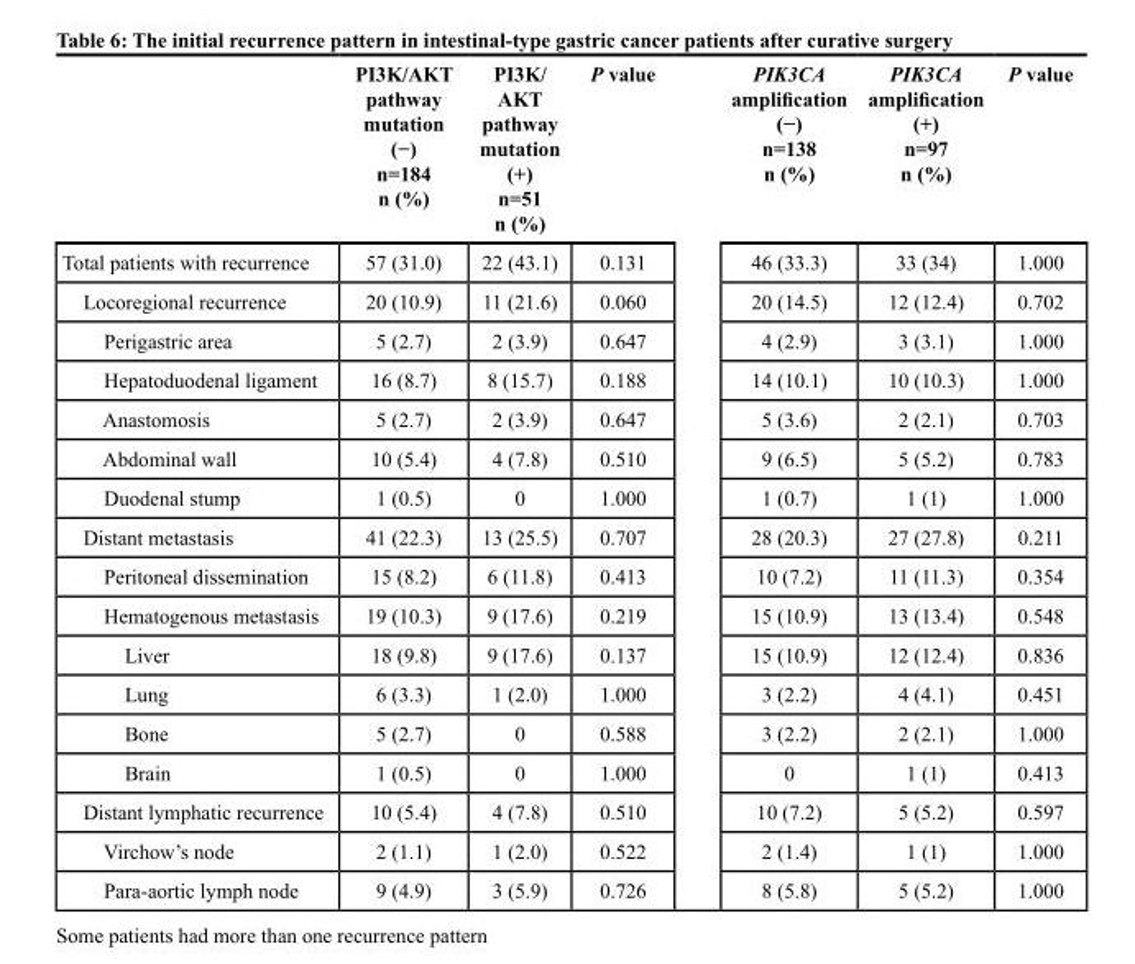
<table><thead><tr><td></td><td>PI3K/AKT pathway mutation (−) n=184 n (%)</td><td>PI3K/ AKT pathway mutation (+) n=51 n (%)</td><td>P value</td><td>PIK3CA amplification (−) n=138 n (%)</td><td>PIK3CA amplification (+) n=97 n (%)</td><td>P value</td></tr></thead><tbody><tr><td>Total patients with recurrence</td><td>57 (31.0)</td><td>22 (43.1)</td><td>0.131</td><td>46 (33.3)</td><td>33 (34)</td><td>1.000</td></tr><tr><td>Locoregional recurrence</td><td>20 (10.9)</td><td>11 (21.6)</td><td>0.060</td><td>20 (14.5)</td><td>12 (12.4)</td><td>0.702</td></tr><tr><td>Perigastric area</td><td>5 (2.7)</td><td>2 (3.9)</td><td>0.647</td><td>4 (2.9)</td><td>3 (3.1)</td><td>1.000</td></tr><tr><td>Hepatoduodenal ligament</td><td>16 (8.7)</td><td>8 (15.7)</td><td>0.188</td><td>14 (10.1)</td><td>10 (10.3)</td><td>1.000</td></tr><tr><td>Anastomosis</td><td>5 (2.7)</td><td>2 (3.9)</td><td>0.647</td><td>5 (3.6)</td><td>2 (2.1)</td><td>0.703</td></tr><tr><td>Abdominal wall</td><td>10 (5.4)</td><td>4 (7.8)</td><td>0.510</td><td>9 (6.5)</td><td>5 (5.2)</td><td>0.783</td></tr><tr><td>Duodenal stump</td><td>1 (0.5)</td><td>0</td><td>1.000</td><td>1 (0.7)</td><td>1 (1)</td><td>1.000</td></tr><tr><td>Distant metastasis</td><td>41 (22.3)</td><td>13 (25.5)</td><td>0.707</td><td>28 (20.3)</td><td>27 (27.8)</td><td>0.211</td></tr><tr><td>Peritoneal dissemination</td><td>15 (8.2)</td><td>6 (11.8)</td><td>0.413</td><td>10 (7.2)</td><td>11 (11.3)</td><td>0.354</td></tr><tr><td>Hematogenous metastasis</td><td>19 (10.3)</td><td>9 (17.6)</td><td>0.219</td><td>15 (10.9)</td><td>13 (13.4)</td><td>0.548</td></tr><tr><td>Liver</td><td>18 (9.8)</td><td>9 (17.6)</td><td>0.137</td><td>15 (10.9)</td><td>12 (12.4)</td><td>0.836</td></tr><tr><td>Lung</td><td>6 (3.3)</td><td>1 (2.0)</td><td>1.000</td><td>3 (2.2)</td><td>4 (4.1)</td><td>0.451</td></tr><tr><td>Bone</td><td>5 (2.7)</td><td>0</td><td>0.588</td><td>3 (2.2)</td><td>2 (2.1)</td><td>1.000</td></tr><tr><td>Brain</td><td>1 (0.5)</td><td>0</td><td>1.000</td><td>0</td><td>1 (1)</td><td>0.413</td></tr><tr><td>Distant lymphatic recurrence</td><td>10 (5.4)</td><td>4 (7.8)</td><td>0.510</td><td>10 (7.2)</td><td>5 (5.2)</td><td>0.597</td></tr><tr><td>Virchow’s node</td><td>2 (1.1)</td><td>1 (2.0)</td><td>0.522</td><td>2 (1.4)</td><td>1 (1)</td><td>1.000</td></tr><tr><td>Para-aortic lymph node</td><td>9 (4.9)</td><td>3 (5.9)</td><td>0.726</td><td>8 (5.8)</td><td>5 (5.2)</td><td>1.000</td></tr></tbody></table>